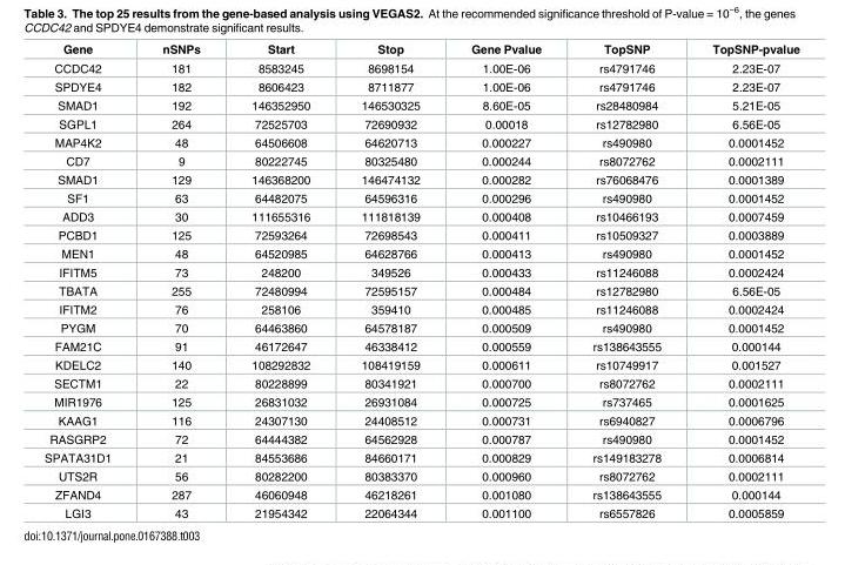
<table><thead><tr><td>Gene</td><td>nSNPs</td><td>Start</td><td>Stop</td><td>Gene Pvalue</td><td>TopSNP</td><td>TopSNP-pvalue</td></tr></thead><tbody><tr><td>CCDC42</td><td>181</td><td>8583245</td><td>8698154</td><td>1.00E-06</td><td>rs4791746</td><td>2.23E-07</td></tr><tr><td>SPDYE4</td><td>182</td><td>8606423</td><td>8711877</td><td>1.00E-06</td><td>rs4791746</td><td>2.23E-07</td></tr><tr><td>SMAD1</td><td>192</td><td>146352950</td><td>146530325</td><td>8.60E-05</td><td>rs28480984</td><td>5.21E-05</td></tr><tr><td>SGPL1</td><td>264</td><td>72525703</td><td>72690932</td><td>0.00018</td><td>rs12782980</td><td>6.56E-05</td></tr><tr><td>MAP4K2</td><td>48</td><td>64506608</td><td>64620713</td><td>0.000227</td><td>rs490980</td><td>0.0001452</td></tr><tr><td>CD7</td><td>9</td><td>80222745</td><td>80325480</td><td>0.000244</td><td>rs8072762</td><td>0.0002111</td></tr><tr><td>SMAD1</td><td>129</td><td>146368200</td><td>146474132</td><td>0.000282</td><td>rs76068476</td><td>0.0001389</td></tr><tr><td>SF1</td><td>63</td><td>64482075</td><td>64596316</td><td>0.000296</td><td>rs490980</td><td>0.0001452</td></tr><tr><td>ADD3</td><td>30</td><td>111655316</td><td>111818139</td><td>0.000408</td><td>rs10466193</td><td>0.0007459</td></tr><tr><td>PCBD1</td><td>125</td><td>72593264</td><td>72698543</td><td>0.000411</td><td>rs10509327</td><td>0.0003889</td></tr><tr><td>MEN1</td><td>48</td><td>64520985</td><td>64628766</td><td>0.000413</td><td>rs490980</td><td>0.0001452</td></tr><tr><td>IFITM5</td><td>73</td><td>248200</td><td>349526</td><td>0.000433</td><td>rs11246088</td><td>0.0002424</td></tr><tr><td>TBATA</td><td>255</td><td>72480994</td><td>72595157</td><td>0.000484</td><td>rs12782980</td><td>6.56E-05</td></tr><tr><td>IFITM2</td><td>76</td><td>258106</td><td>359410</td><td>0.000485</td><td>rs11246088</td><td>0.0002424</td></tr><tr><td>PYGM</td><td>70</td><td>64463860</td><td>64578187</td><td>0.000509</td><td>rs490980</td><td>0.0001452</td></tr><tr><td>FAM21C</td><td>91</td><td>46172647</td><td>46338412</td><td>0.000559</td><td>rs138643555</td><td>0.000144</td></tr><tr><td>KDELC2</td><td>140</td><td>108292832</td><td>108419159</td><td>0.000611</td><td>rs10749917</td><td>0.001527</td></tr><tr><td>SECTM1</td><td>22</td><td>80228899</td><td>80341921</td><td>0.000700</td><td>rs8072762</td><td>0.0002111</td></tr><tr><td>MIR1976</td><td>125</td><td>26831032</td><td>26931084</td><td>0.000725</td><td>rs737465</td><td>0.0001625</td></tr><tr><td>KAAG1</td><td>116</td><td>24307130</td><td>24408512</td><td>0.000731</td><td>rs6940827</td><td>0.0006796</td></tr><tr><td>RASGRP2</td><td>72</td><td>64444382</td><td>64562928</td><td>0.000787</td><td>rs490980</td><td>0.0001452</td></tr><tr><td>SPATA31D1</td><td>21</td><td>84553686</td><td>84660171</td><td>0.000829</td><td>rs149183278</td><td>0.0006814</td></tr><tr><td>UTS2R</td><td>56</td><td>80282200</td><td>80383370</td><td>0.000960</td><td>rs8072762</td><td>0.0002111</td></tr><tr><td>ZFAND4</td><td>287</td><td>46060948</td><td>46218261</td><td>0.001080</td><td>rs138643555</td><td>0.000144</td></tr><tr><td>LGI3</td><td>43</td><td>21954342</td><td>22064344</td><td>0.001100</td><td>rs6557826</td><td>0.0005859</td></tr></tbody></table>